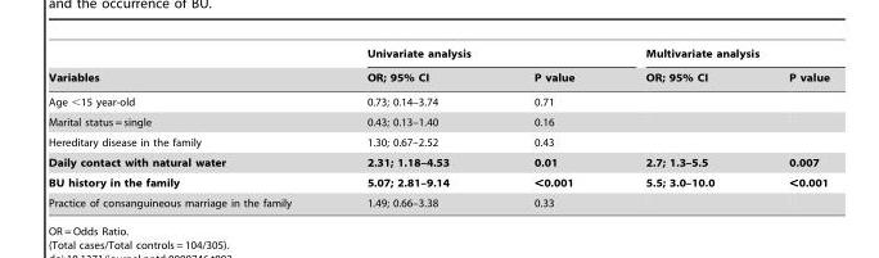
<table><thead><tr><td rowspan="2">Variables</td><td colspan="2">Univariate analysis</td><td colspan="2">Multivariate analysis</td></tr><tr><td>OR; 95% CI</td><td>P value</td><td>OR; 95% CI</td><td>P value</td></tr></thead><tbody><tr><td>Age &lt;15 year-old</td><td>0.73; 0.14–3.74</td><td>0.71</td><td></td><td></td></tr><tr><td>Marital status = single</td><td>0.43; 0.13–1.40</td><td>0.16</td><td></td><td></td></tr><tr><td>Hereditary disease in the family</td><td>1.30; 0.67–2.52</td><td>0.43</td><td></td><td></td></tr><tr><td>Daily contact with natural water</td><td>2.31; 1.18–4.53</td><td>0.01</td><td>2.7; 1.3–5.5</td><td>0.007</td></tr><tr><td>BU history in the family</td><td>5.07; 2.81–9.14</td><td>&lt;0.001</td><td>5.5; 3.0–10.0</td><td>&lt;0.001</td></tr><tr><td>Practice of consanguineous marriage in the family</td><td>1.49; 0.66–3.38</td><td>0.33</td><td></td><td></td></tr></tbody></table>